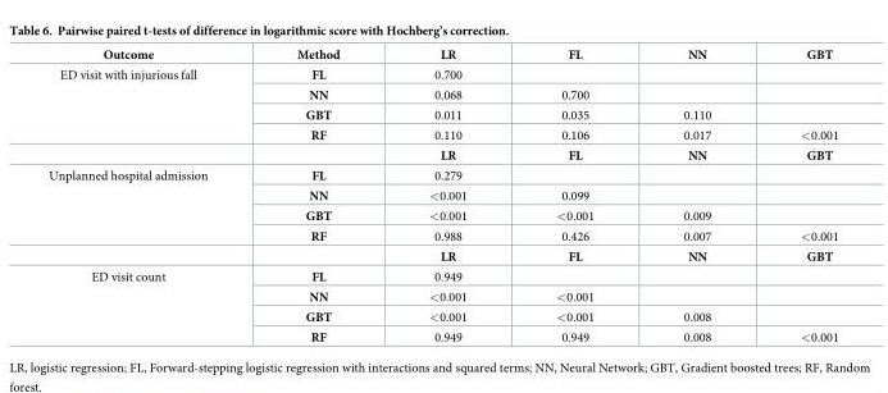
<table><thead><tr><td>Outcome</td><td>Method</td><td>LR</td><td>FL</td><td>NN</td><td>GBT</td></tr></thead><tbody><tr><td rowspan="5">ED visit with injurious fall</td><td>FL</td><td>0.700</td><td></td><td></td><td></td></tr><tr><td>NN</td><td>0.068</td><td>0.700</td><td></td><td></td></tr><tr><td>GBT</td><td>0.011</td><td>0.035</td><td>0.110</td><td></td></tr><tr><td>RF</td><td>0.110</td><td>0.106</td><td>0.017</td><td>&lt;0.001</td></tr><tr><td></td><td>LR</td><td>FL</td><td>NN</td><td>GBT</td></tr><tr><td rowspan="5">Unplanned hospital admission</td><td>FL</td><td>0.279</td><td></td><td></td><td></td></tr><tr><td>NN</td><td>&lt;0.001</td><td>0.099</td><td></td><td></td></tr><tr><td>GBT</td><td>&lt;0.001</td><td>&lt;0.001</td><td>0.009</td><td></td></tr><tr><td>RF</td><td>0.988</td><td>0.426</td><td>0.007</td><td>&lt;0.001</td></tr><tr><td></td><td>LR</td><td>FL</td><td>NN</td><td>GBT</td></tr><tr><td rowspan="4">ED visit count</td><td>FL</td><td>0.949</td><td></td><td></td><td></td></tr><tr><td>NN</td><td>&lt;0.001</td><td>&lt;0.001</td><td></td><td></td></tr><tr><td>GBT</td><td>&lt;0.001</td><td>&lt;0.001</td><td>0.008</td><td></td></tr><tr><td>RF</td><td>0.949</td><td>0.949</td><td>0.008</td><td>&lt;0.001</td></tr></tbody></table>